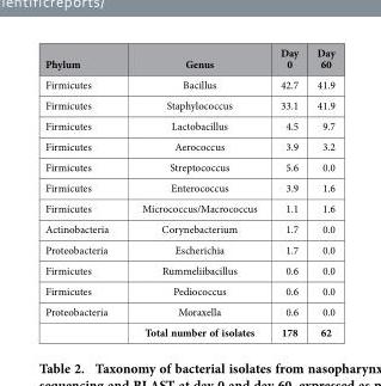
<table><thead><tr><td>Phylum</td><td>Genus</td><td>Day 0</td><td>Day 60</td></tr></thead><tbody><tr><td>Firmicutes</td><td>Bacillus</td><td>42.7</td><td>41.9</td></tr><tr><td>Firmicutes</td><td>Staphylococcus</td><td>33.1</td><td>41.9</td></tr><tr><td>Firmicutes</td><td>Lactobacillus</td><td>4.5</td><td>9.7</td></tr><tr><td>Firmicutes</td><td>Aerococcus</td><td>3.9</td><td>3.2</td></tr><tr><td>Firmicutes</td><td>Streptococcus</td><td>5.6</td><td>0.0</td></tr><tr><td>Firmicutes</td><td>Enterococcus</td><td>3.9</td><td>1.6</td></tr><tr><td>Firmicutes</td><td>Micrococcus/Macrococcus</td><td>1.1</td><td>1.6</td></tr><tr><td>Actinobacteria</td><td>Corynebacterium</td><td>1.7</td><td>0.0</td></tr><tr><td>Proteobacteria</td><td>Escherichia</td><td>1.7</td><td>0.0</td></tr><tr><td>Firmicutes</td><td>Rummeliibacillus</td><td>0.6</td><td>0.0</td></tr><tr><td>Firmicutes</td><td>Pediococcus</td><td>0.6</td><td>0.0</td></tr><tr><td rowspan="2">Proteobacteria</td><td>Moraxella</td><td>0.6</td><td>0.0</td></tr><tr><td>Total number of isolates</td><td>178</td><td>62</td></tr></tbody></table>